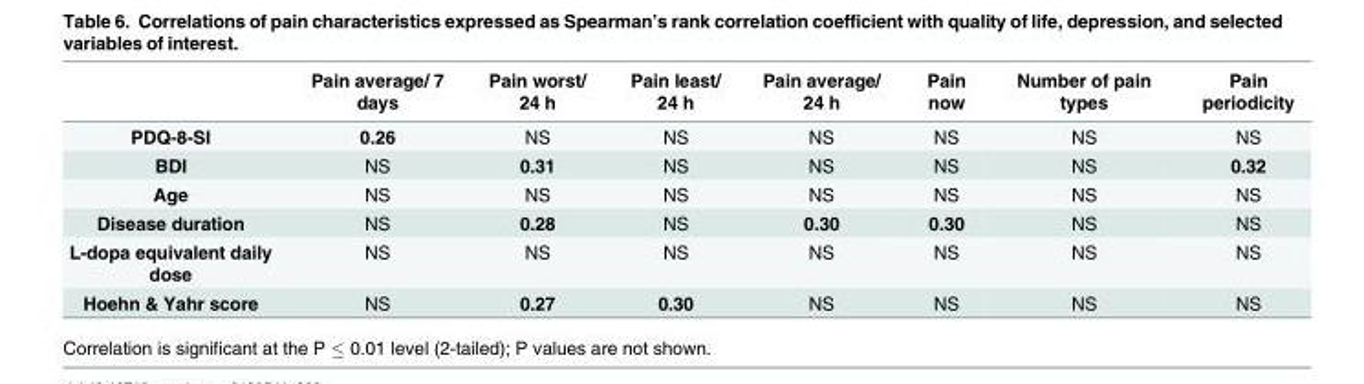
<table><thead><tr><td></td><td>Pain average/ 7 days</td><td>Pain worst/ 24 h</td><td>Pain least/ 24 h</td><td>Pain average/ 24 h</td><td>Pain now</td><td>Number of pain types</td><td>Pain periodicity</td></tr></thead><tbody><tr><td>PDQ-8-SI</td><td>0.26</td><td>NS</td><td>NS</td><td>NS</td><td>NS</td><td>NS</td><td>NS</td></tr><tr><td>BDI</td><td>NS</td><td>0.31</td><td>NS</td><td>NS</td><td>NS</td><td>NS</td><td>0.32</td></tr><tr><td>Age</td><td>NS</td><td>NS</td><td>NS</td><td>NS</td><td>NS</td><td>NS</td><td>NS</td></tr><tr><td>Disease duration</td><td>NS</td><td>0.28</td><td>NS</td><td>0.30</td><td>0.30</td><td>NS</td><td>NS</td></tr><tr><td>L-dopa equivalent daily dose</td><td>NS</td><td>NS</td><td>NS</td><td>NS</td><td>NS</td><td>NS</td><td>NS</td></tr><tr><td>Hoehn &amp; Yahr score</td><td>NS</td><td>0.27</td><td>0.30</td><td>NS</td><td>NS</td><td>NS</td><td>NS</td></tr></tbody></table>